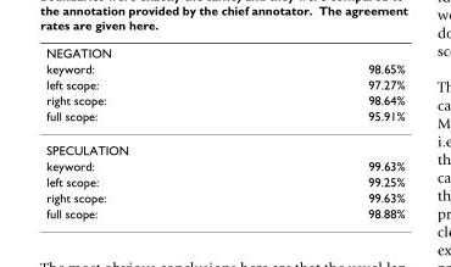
<table><thead><tr><td rowspan="5">NEGATION keyword: left scope: right scope: full scope:</td><td rowspan="5">98.65% 97.27% 98.64% 95.91%</td></tr><tr></tr><tr></tr><tr></tr><tr></tr></thead><tbody><tr><td colspan="2">SPECULATION</td></tr><tr><td>keyword:</td><td>99.63%</td></tr><tr><td>left scope:</td><td>99.25%</td></tr><tr><td>right scope:</td><td>99.63%</td></tr><tr><td>full scope:</td><td>98.88%</td></tr></tbody></table>